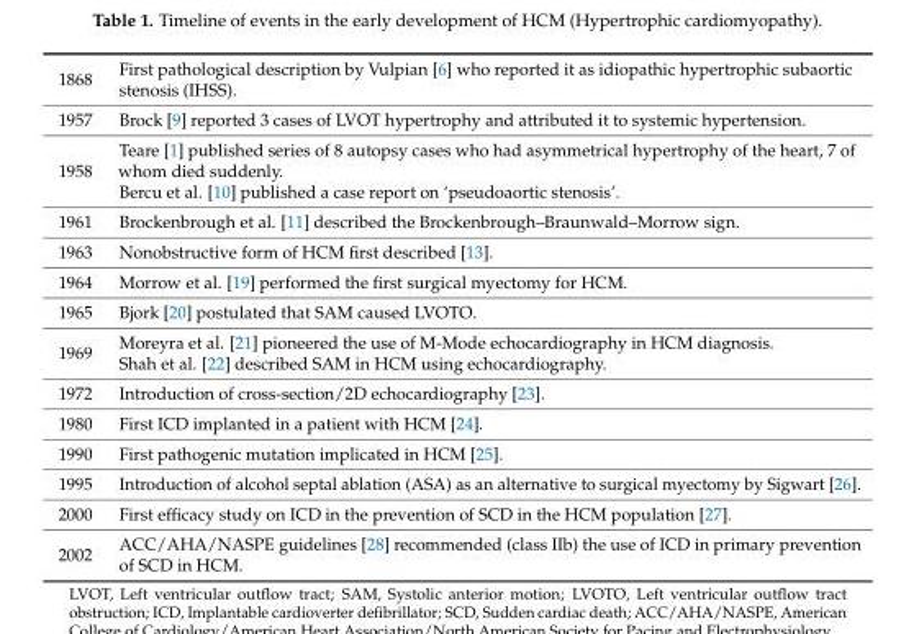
<table><tbody><tr><td>1868</td><td>First pathological description by Vulpian [6] who reported it as idiopathic hypertrophic subaortic stenosis (IHSS).</td></tr><tr><td>1957</td><td>Brock [9] reported 3 cases of LVOT hypertrophy and attributed it to systemic hypertension.</td></tr><tr><td>1958</td><td>Teare [1] published series of 8 autopsy cases who had asymmetrical hypertrophy of the heart, 7 of whom died suddenly. Bercu et al. [10] published a case report on ‘pseudoaortic stenosis’.</td></tr><tr><td>1961</td><td>Brockenbrough et al. [11] described the Brockenbrough–Braunwald–Morrow sign.</td></tr><tr><td>1963</td><td>Nonobstructive form of HCM first described [13].</td></tr><tr><td>1964</td><td>Morrow et al. [19] performed the first surgical myectomy for HCM.</td></tr><tr><td>1965</td><td>Bjork [20] postulated that SAM caused LVOTO.</td></tr><tr><td>1969</td><td>Moreyra et al. [21] pioneered the use of M-Mode echocardiography in HCM diagnosis. Shah et al. [22] described SAM in HCM using echocardiography.</td></tr><tr><td>1972</td><td>Introduction of cross-section/2D echocardiography [23].</td></tr><tr><td>1980</td><td>First ICD implanted in a patient with HCM [24].</td></tr><tr><td>1990</td><td>First pathogenic mutation implicated in HCM [25].</td></tr><tr><td>1995</td><td>Introduction of alcohol septal ablation (ASA) as an alternative to surgical myectomy by Sigwart [26].</td></tr><tr><td>2000</td><td>First efficacy study on ICD in the prevention of SCD in the HCM population [27].</td></tr><tr><td>2002</td><td>ACC/AHA/NASPE guidelines [28] recommended (class IIb) the use of ICD in primary prevention of SCD in HCM.</td></tr></tbody></table>